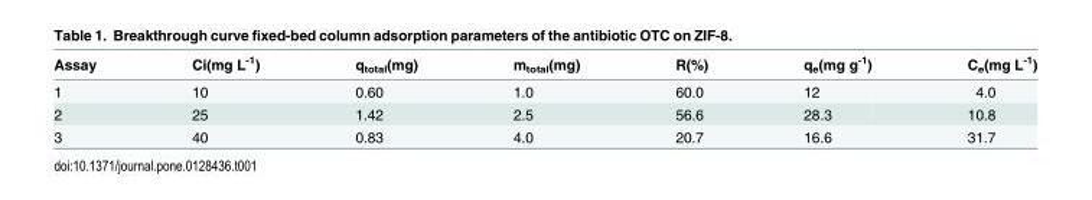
<table><thead><tr><td>Assay</td><td>Ci(mg L<sup>-1</sup>)</td><td>q<sub>total</sub>(mg)</td><td>m<sub>total</sub>(mg)</td><td>R(%)</td><td>q<sub>e</sub>(mg g<sup>-1</sup>)</td><td>C<sub>e</sub>(mg L<sup>-1</sup>)</td></tr></thead><tbody><tr><td>1</td><td>10</td><td>0.60</td><td>1.0</td><td>60.0</td><td>12</td><td>4.0</td></tr><tr><td>2</td><td>25</td><td>1.42</td><td>2.5</td><td>56.6</td><td>28.3</td><td>10.8</td></tr><tr><td>3</td><td>40</td><td>0.83</td><td>4.0</td><td>20.7</td><td>16.6</td><td>31.7</td></tr></tbody></table>